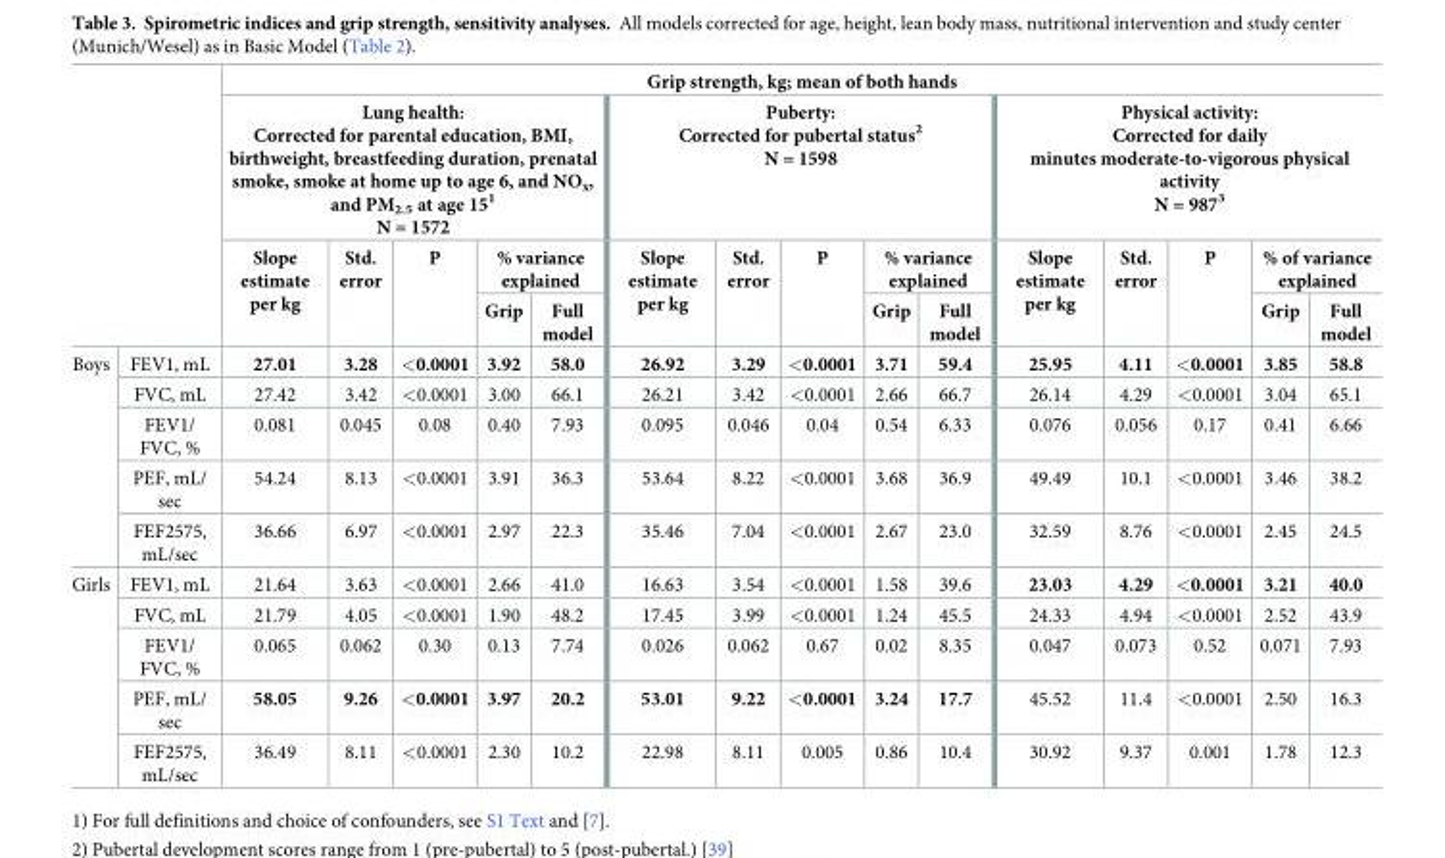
<table><thead><tr><td rowspan="4"></td><td rowspan="4"></td><td colspan="15">Grip strength, kg; mean of both hands</td></tr><tr><td colspan="5">Lung health: Corrected for parental education, BMI, birthweight, breastfeeding duration, prenatal smoke, smoke at home up to age 6, and NO<sub>x</sub>, and PM<sub>2.5</sub> at age 15<sup>1</sup> N = 1572</td><td colspan="5">Puberty: Corrected for pubertal status<sup>2</sup> N = 1598</td><td colspan="5">Physical activity: Corrected for daily minutes moderate-to-vigorous physical activity N = 987<sup>3</sup></td></tr><tr><td rowspan="2">Slope estimate per kg</td><td rowspan="2">Std. error</td><td rowspan="2">P</td><td colspan="2">% variance explained</td><td rowspan="2">Slope estimate per kg</td><td rowspan="2">Std. error</td><td rowspan="2">P</td><td colspan="2">% variance explained</td><td rowspan="2">Slope estimate per kg</td><td rowspan="2">Std. error</td><td rowspan="2">P</td><td colspan="2">% of variance explained</td></tr><tr><td>Grip</td><td>Full model</td><td>Grip</td><td>Full model</td><td>Grip</td><td>Full model</td></tr></thead><tbody><tr><td rowspan="5">Boys</td><td>FEV1, mL</td><td>27.01</td><td>3.28</td><td>&lt;0.0001</td><td>3.92</td><td>58.0</td><td>26.92</td><td>3.29</td><td>&lt;0.0001</td><td>3.71</td><td>59.4</td><td>25.95</td><td>4.11</td><td>&lt;0.0001</td><td>3.85</td><td>58.8</td></tr><tr><td>FVC, mL</td><td>27.42</td><td>3.42</td><td>&lt;0.0001</td><td>3.00</td><td>66.1</td><td>26.21</td><td>3.42</td><td>&lt;0.0001</td><td>2.66</td><td>66.7</td><td>26.14</td><td>4.29</td><td>&lt;0.0001</td><td>3.04</td><td>65.1</td></tr><tr><td>FEV1/ FVC, %</td><td>0.081</td><td>0.045</td><td>0.08</td><td>0.40</td><td>7.93</td><td>0.095</td><td>0.046</td><td>0.04</td><td>0.54</td><td>6.33</td><td>0.076</td><td>0.056</td><td>0.17</td><td>0.41</td><td>6.66</td></tr><tr><td>PEF, mL/ sec</td><td>54.24</td><td>8.13</td><td>&lt;0.0001</td><td>3.91</td><td>36.3</td><td>53.64</td><td>8.22</td><td>&lt;0.0001</td><td>3.68</td><td>36.9</td><td>49.49</td><td>10.1</td><td>&lt;0.0001</td><td>3.46</td><td>38.2</td></tr><tr><td>FEF2575, mL/sec</td><td>36.66</td><td>6.97</td><td>&lt;0.0001</td><td>2.97</td><td>22.3</td><td>35.46</td><td>7.04</td><td>&lt;0.0001</td><td>2.67</td><td>23.0</td><td>32.59</td><td>8.76</td><td>&lt;0.0001</td><td>2.45</td><td>24.5</td></tr><tr><td rowspan="5">Girls</td><td>FEV1, mL</td><td>21.64</td><td>3.63</td><td>&lt;0.0001</td><td>2.66</td><td>41.0</td><td>16.63</td><td>3.54</td><td>&lt;0.0001</td><td>1.58</td><td>39.6</td><td>23.03</td><td>4.29</td><td>&lt;0.0001</td><td>3.21</td><td>40.0</td></tr><tr><td>FVC, mL</td><td>21.79</td><td>4.05</td><td>&lt;0.0001</td><td>1.90</td><td>48.2</td><td>17.45</td><td>3.99</td><td>&lt;0.0001</td><td>1.24</td><td>45.5</td><td>24.33</td><td>4.94</td><td>&lt;0.0001</td><td>2.52</td><td>43.9</td></tr><tr><td>FEV1/ FVC, %</td><td>0.065</td><td>0.062</td><td>0.30</td><td>0.13</td><td>7.74</td><td>0.026</td><td>0.062</td><td>0.67</td><td>0.02</td><td>8.35</td><td>0.047</td><td>0.073</td><td>0.52</td><td>0.071</td><td>7.93</td></tr><tr><td>PEF, mL/ sec</td><td>58.05</td><td>9.26</td><td>&lt;0.0001</td><td>3.97</td><td>20.2</td><td>53.01</td><td>9.22</td><td>&lt;0.0001</td><td>3.24</td><td>17.7</td><td>45.52</td><td>11.4</td><td>&lt;0.0001</td><td>2.50</td><td>16.3</td></tr><tr><td>FEF2575, mL/sec</td><td>36.49</td><td>8.11</td><td>&lt;0.0001</td><td>2.30</td><td>10.2</td><td>22.98</td><td>8.11</td><td>0.005</td><td>0.86</td><td>10.4</td><td>30.92</td><td>9.37</td><td>0.001</td><td>1.78</td><td>12.3</td></tr></tbody></table>